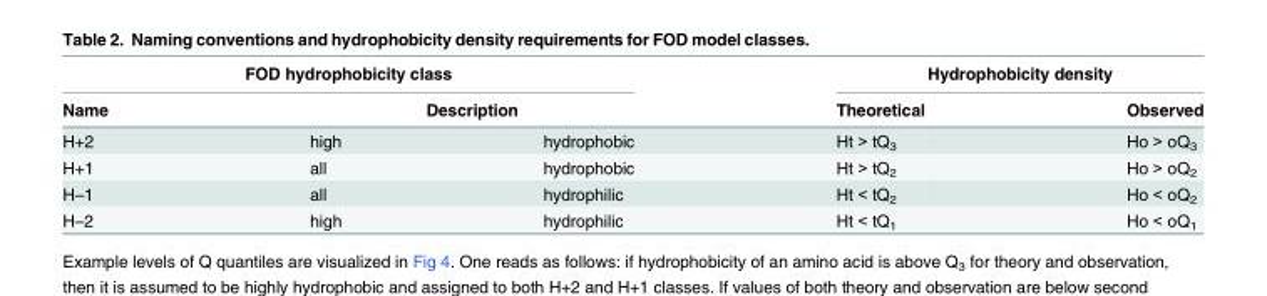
<table><thead><tr><td colspan="3">FOD hydrophobicity class</td><td colspan="2">Hydrophobicity density</td></tr><tr><td rowspan="2">Name H+2</td><td colspan="2">Description</td><td rowspan="2">Theoretical Ht &gt; tQ<sub>3</sub></td><td rowspan="2">Observed Ho &gt; oQ<sub>3</sub></td></tr><tr><td>high</td><td>hydrophobic</td></tr></thead><tbody><tr><td>H+1</td><td>all</td><td>hydrophobic</td><td>Ht &gt; tQ<sub>2</sub></td><td>Ho &gt; oQ<sub>2</sub></td></tr><tr><td>H–1</td><td>all</td><td>hydrophilic</td><td>Ht &lt; tQ<sub>2</sub></td><td>Ho &lt; oQ<sub>2</sub></td></tr><tr><td>H–2</td><td>high</td><td>hydrophilic</td><td>Ht &lt; tQ<sub>1</sub></td><td>Ho &lt; oQ<sub>1</sub></td></tr></tbody></table>